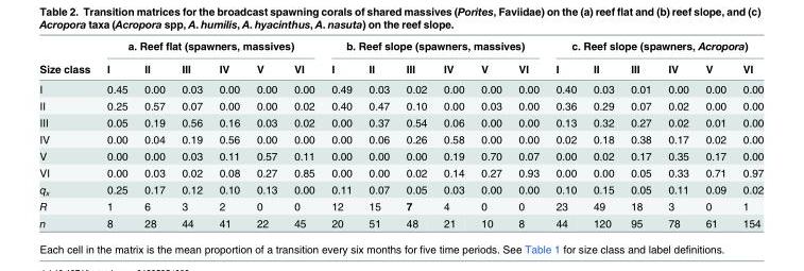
<table><thead><tr><td rowspan="2">Size class</td><td colspan="6">a. Reef flat (spawners, massives)</td><td colspan="6">b. Reef slope (spawners, massives)</td><td colspan="6">c. Reef slope (spawners, Acropora)</td></tr><tr><td>I</td><td>II</td><td>III</td><td>IV</td><td>V</td><td>VI</td><td>I</td><td>II</td><td>III</td><td>IV</td><td>V</td><td>VI</td><td>I</td><td>II</td><td>III</td><td>IV</td><td>V</td><td>VI</td></tr></thead><tbody><tr><td>I</td><td>0.45</td><td>0.00</td><td>0.03</td><td>0.00</td><td>0.00</td><td>0.00</td><td>0.49</td><td>0.03</td><td>0.02</td><td>0.00</td><td>0.00</td><td>0.00</td><td>0.40</td><td>0.03</td><td>0.01</td><td>0.00</td><td>0.00</td><td>0.00</td></tr><tr><td>II</td><td>0.25</td><td>0.57</td><td>0.07</td><td>0.00</td><td>0.00</td><td>0.02</td><td>0.40</td><td>0.47</td><td>0.10</td><td>0.00</td><td>0.03</td><td>0.00</td><td>0.36</td><td>0.29</td><td>0.07</td><td>0.02</td><td>0.00</td><td>0.00</td></tr><tr><td>III</td><td>0.05</td><td>0.19</td><td>0.56</td><td>0.16</td><td>0.03</td><td>0.02</td><td>0.00</td><td>0.37</td><td>0.54</td><td>0.06</td><td>0.00</td><td>0.00</td><td>0.13</td><td>0.32</td><td>0.27</td><td>0.02</td><td>0.01</td><td>0.00</td></tr><tr><td>IV</td><td>0.00</td><td>0.04</td><td>0.19</td><td>0.56</td><td>0.00</td><td>0.00</td><td>0.00</td><td>0.06</td><td>0.26</td><td>0.58</td><td>0.00</td><td>0.00</td><td>0.02</td><td>0.18</td><td>0.38</td><td>0.17</td><td>0.02</td><td>0.00</td></tr><tr><td>V</td><td>0.00</td><td>0.00</td><td>0.03</td><td>0.11</td><td>0.57</td><td>0.11</td><td>0.00</td><td>0.00</td><td>0.00</td><td>0.19</td><td>0.70</td><td>0.07</td><td>0.00</td><td>0.02</td><td>0.17</td><td>0.35</td><td>0.17</td><td>0.00</td></tr><tr><td>VI</td><td>0.00</td><td>0.03</td><td>0.02</td><td>0.08</td><td>0.27</td><td>0.85</td><td>0.00</td><td>0.00</td><td>0.02</td><td>0.14</td><td>0.27</td><td>0.93</td><td>0.00</td><td>0.00</td><td>0.05</td><td>0.33</td><td>0.71</td><td>0.97</td></tr><tr><td>q<sub>x</sub></td><td>0.25</td><td>0.17</td><td>0.12</td><td>0.10</td><td>0.13</td><td>0.00</td><td>0.11</td><td>0.07</td><td>0.05</td><td>0.03</td><td>0.00</td><td>0.00</td><td>0.10</td><td>0.15</td><td>0.05</td><td>0.11</td><td>0.09</td><td>0.02</td></tr><tr><td>R</td><td>1</td><td>6</td><td>3</td><td>2</td><td>0</td><td>0</td><td>12</td><td>15</td><td>7</td><td>4</td><td>0</td><td>0</td><td>23</td><td>49</td><td>18</td><td>3</td><td>0</td><td>1</td></tr><tr><td>n</td><td>8</td><td>28</td><td>44</td><td>41</td><td>22</td><td>45</td><td>20</td><td>51</td><td>48</td><td>21</td><td>10</td><td>8</td><td>44</td><td>120</td><td>95</td><td>78</td><td>61</td><td>154</td></tr></tbody></table>